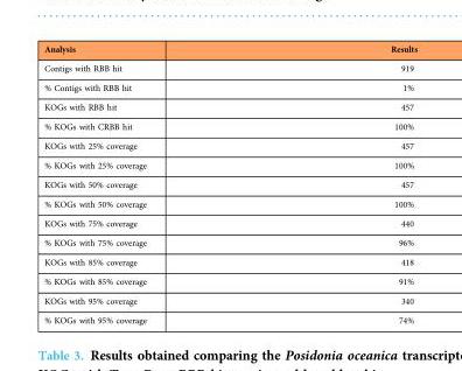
<table><thead><tr><td>Analysis</td><td>Results</td></tr></thead><tbody><tr><td>Contigs with RBB hit</td><td>919</td></tr><tr><td>% Contigs with RBB hit</td><td>1%</td></tr><tr><td>KOGs with RBB hit</td><td>457</td></tr><tr><td>% KOGs with CRBB hit</td><td>100%</td></tr><tr><td>KOGs with 25% coverage</td><td>457</td></tr><tr><td>% KOGs with 25% coverage</td><td>100%</td></tr><tr><td>KOGs with 50% coverage</td><td>457</td></tr><tr><td>% KOGs with 50% coverage</td><td>100%</td></tr><tr><td>KOGs with 75% coverage</td><td>440</td></tr><tr><td>% KOGs with 75% coverage</td><td>96%</td></tr><tr><td>KOGs with 85% coverage</td><td>418</td></tr><tr><td>% KOGs with 85% coverage</td><td>91%</td></tr><tr><td>KOGs with 95% coverage</td><td>340</td></tr><tr><td>% KOGs with 95% coverage</td><td>74%</td></tr></tbody></table>